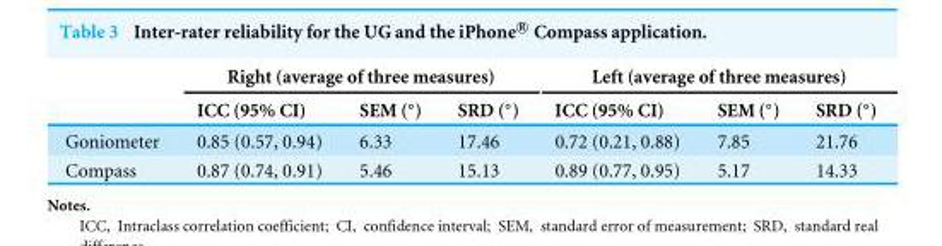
<table><thead><tr><td rowspan="2"></td><td colspan="3">Right (average of three measures)</td><td colspan="3">Left (average of three measures)</td></tr><tr><td>ICC (95% CI)</td><td>SEM (◦)</td><td>SRD (◦)</td><td>ICC (95% CI)</td><td>SEM (◦)</td><td>SRD (◦)</td></tr></thead><tbody><tr><td>Goniometer</td><td>0.85 (0.57, 0.94)</td><td>6.33</td><td>17.46</td><td>0.72 (0.21, 0.88)</td><td>7.85</td><td>21.76</td></tr><tr><td>Compass</td><td>0.87 (0.74, 0.91)</td><td>5.46</td><td>15.13</td><td>0.89 (0.77, 0.95)</td><td>5.17</td><td>14.33</td></tr></tbody></table>